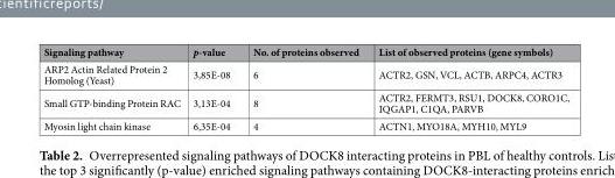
<table><thead><tr><td>Signaling pathway</td><td>p-value</td><td>No. of proteins observed</td><td>List of observed proteins (gene symbols)</td></tr></thead><tbody><tr><td>ARP2 Actin Related Protein 2 Homolog (Yeast)</td><td>3,85E-08</td><td>6</td><td>ACTR2, GSN, VCL, ACTB, ARPC4, ACTR3</td></tr><tr><td>Small GTP-binding Protein RAC</td><td>3,13E-04</td><td>8</td><td>ACTR2, FERMT3, RSU1, DOCK8, CORO1C, IQGAP1, C1QA, PARVB</td></tr><tr><td>Myosin light chain kinase</td><td>6,35E-04</td><td>4</td><td>ACTN1, MYO18A, MYH10, MYL9</td></tr></tbody></table>